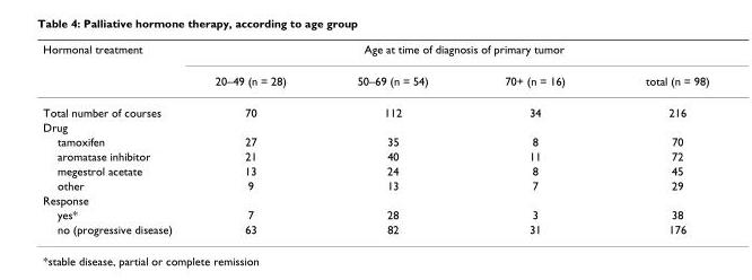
<table><thead><tr><td rowspan="2">Hormonal treatment</td><td colspan="4">Age at time of diagnosis of primary tumor</td></tr><tr><td>20–49 (n = 28)</td><td>50–69 (n = 54)</td><td>70+ (n = 16)</td><td>total (n = 98)</td></tr></thead><tbody><tr><td>Total number of courses</td><td>70</td><td>112</td><td>34</td><td>216</td></tr><tr><td colspan="5">Drug</td></tr><tr><td>tamoxifen</td><td>27</td><td>35</td><td>8</td><td>70</td></tr><tr><td>aromatase inhibitor</td><td>21</td><td>40</td><td>11</td><td>72</td></tr><tr><td>megestrol acetate</td><td>13</td><td>24</td><td>8</td><td>45</td></tr><tr><td>other</td><td>9</td><td>13</td><td>7</td><td>29</td></tr><tr><td colspan="5">Response</td></tr><tr><td>yes*</td><td>7</td><td>28</td><td>3</td><td>38</td></tr><tr><td>no (progressive disease)</td><td>63</td><td>82</td><td>31</td><td>176</td></tr></tbody></table>